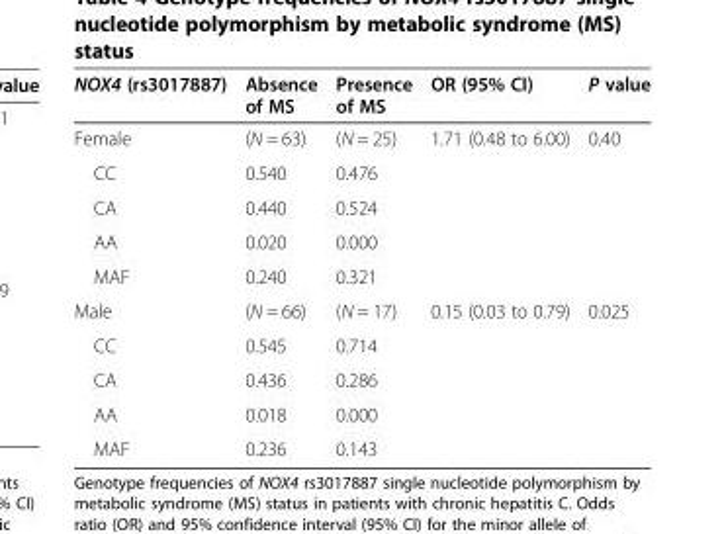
<table><thead><tr><td>NOX4 (rs3017887)</td><td>Absence of MS</td><td>Presence of MS</td><td>OR (95% CI)</td><td>P value</td></tr></thead><tbody><tr><td>Female</td><td>(N = 63)</td><td>(N = 25)</td><td>1.71 (0.48 to 6.00)</td><td>0.40</td></tr><tr><td>CC</td><td>0.540</td><td>0.476</td><td></td><td></td></tr><tr><td>CA</td><td>0.440</td><td>0.524</td><td></td><td></td></tr><tr><td>AA</td><td>0.020</td><td>0.000</td><td></td><td></td></tr><tr><td>MAF</td><td>0.240</td><td>0.321</td><td></td><td></td></tr><tr><td>Male</td><td>(N = 66)</td><td>(N = 17)</td><td>0.15 (0.03 to 0.79)</td><td>0.025</td></tr><tr><td>CC</td><td>0.545</td><td>0.714</td><td></td><td></td></tr><tr><td>CA</td><td>0.436</td><td>0.286</td><td></td><td></td></tr><tr><td>AA</td><td>0.018</td><td>0.000</td><td></td><td></td></tr><tr><td>MAF</td><td>0.236</td><td>0.143</td><td></td><td></td></tr></tbody></table>